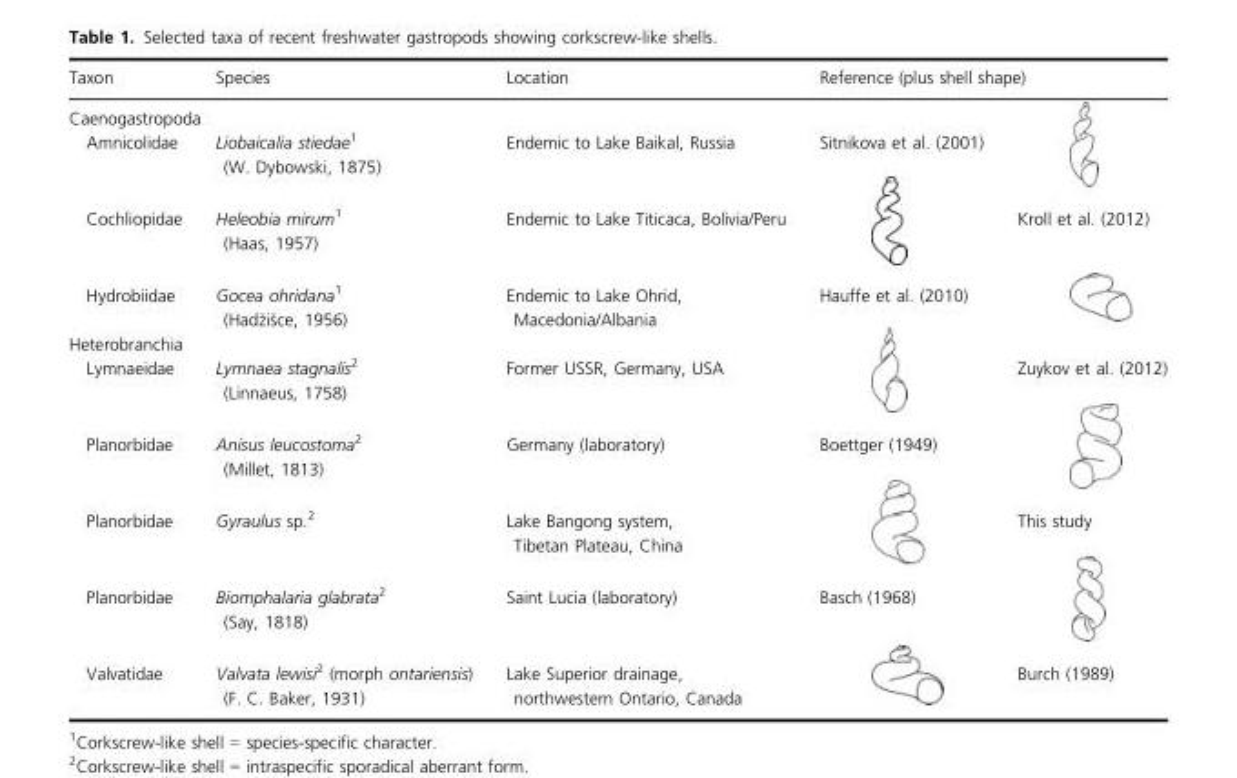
<table><thead><tr><td>Taxon</td><td>Species</td><td>Location</td><td colspan="2">Reference (plus shell shape)</td></tr><tr><td colspan="5">Caenogastropoda</td></tr><tr><td>Amnicolidae</td><td>Liobaicalia stiedae<sup>1</sup> (W. Dybowski, 1875)</td><td>Endemic to Lake Baikal, Russia</td><td>Sitnikova et al. (2001)</td><td></td></tr></thead><tbody><tr><td>Cochliopidae</td><td>Heleobia mirum<sup>1</sup> (Haas, 1957)</td><td>Endemic to Lake Titicaca, Bolivia/Peru</td><td></td><td>Kroll et al. (2012)</td></tr><tr><td>Hydrobiidae</td><td>Gocea ohridana1 (Had�zi�sce, 1956)</td><td>Endemic to Lake Ohrid, Macedonia/Albania</td><td>Hauffe et al. (2010)</td><td></td></tr><tr><td colspan="5">Heterobranchia</td></tr><tr><td>Lymnaeidae</td><td>Lymnaea stagnalis<sup>2</sup> (Linnaeus, 1758)</td><td>Former USSR, Germany, USA</td><td></td><td>Zuykov et al. (2012)</td></tr><tr><td>Planorbidae</td><td>Anisus leucostoma<sup>2</sup> (Millet, 1813)</td><td>Germany (laboratory)</td><td>Boettger (1949)</td><td></td></tr><tr><td>Planorbidae</td><td>Gyraulus sp.<sup>2</sup></td><td>Lake Bangong system, Tibetan Plateau, China</td><td></td><td>This study</td></tr><tr><td>Planorbidae</td><td>Biomphalaria glabrata<sup>2</sup> (Say, 1818)</td><td>Saint Lucia (laboratory)</td><td>Basch (1968)</td><td></td></tr><tr><td>Valvatidae</td><td>Valvata lewisi<sup>2</sup> (morph ontariensis) (F. C. Baker, 1931)</td><td>Lake Superior drainage, northwestern Ontario, Canada</td><td></td><td>Burch (1989)</td></tr></tbody></table>